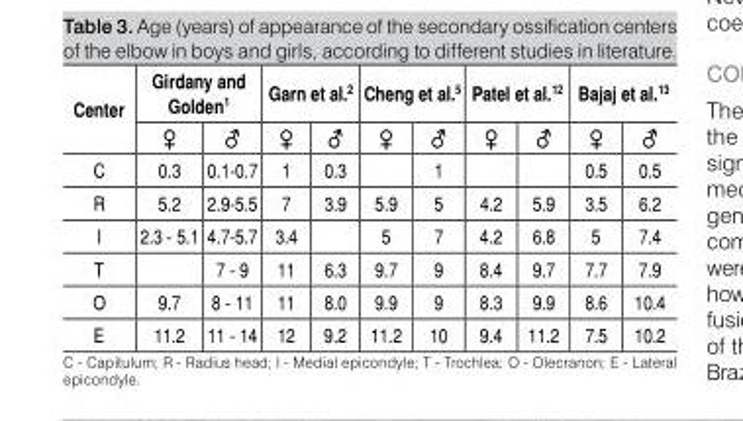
<table><thead><tr><td rowspan="2">Center</td><td colspan="2">Girdany and Golden<sup>1</sup></td><td colspan="2">Garn et al.<sup>2</sup></td><td colspan="2">Cheng et al.<sup>5</sup></td><td colspan="2">Patel et al.<sup>12</sup></td><td colspan="2">Bajaj et al.<sup>13</sup></td></tr><tr><td>♀</td><td>♂</td><td>♀</td><td>♂</td><td>♀</td><td>♂</td><td>♀</td><td>♂</td><td>♀</td><td>♂</td></tr></thead><tbody><tr><td>C</td><td>0.3</td><td>0.1-0.7</td><td>1</td><td>0.3</td><td></td><td>1</td><td></td><td></td><td>0.5</td><td>0.5</td></tr><tr><td>R</td><td>5.2</td><td>2.9-5.5</td><td>7</td><td>3.9</td><td>5.9</td><td>5</td><td>4.2</td><td>5.9</td><td>3.5</td><td>6.2</td></tr><tr><td>I</td><td>2.3 - 5.1</td><td>4.7-5.7</td><td>3.4</td><td></td><td>5</td><td>7</td><td>4.2</td><td>6.8</td><td>5</td><td>7.4</td></tr><tr><td>T</td><td></td><td>7 - 9</td><td>11</td><td>6.3</td><td>9.7</td><td>9</td><td>8.4</td><td>9.7</td><td>7.7</td><td>7.9</td></tr><tr><td>O</td><td>9.7</td><td>8 - 11</td><td>11</td><td>8.0</td><td>9.9</td><td>9</td><td>8.3</td><td>9.9</td><td>8.6</td><td>10.4</td></tr><tr><td>E</td><td>11.2</td><td>11 - 14</td><td>12</td><td>9.2</td><td>11.2</td><td>10</td><td>9.4</td><td>11.2</td><td>7.5</td><td>10.2</td></tr></tbody></table>